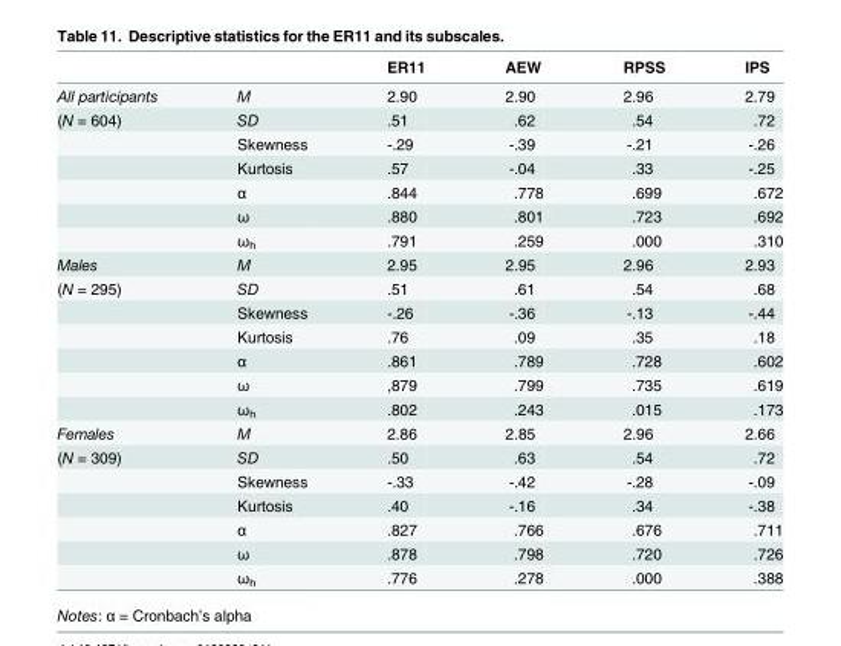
<table><thead><tr><td></td><td></td><td>ER11</td><td>AEW</td><td>RPSS</td><td>IPS</td></tr></thead><tbody><tr><td>All participants</td><td>M</td><td>2.90</td><td>2.90</td><td>2.96</td><td>2.79</td></tr><tr><td rowspan="6">(N = 604)</td><td>SD</td><td>.51</td><td>.62</td><td>.54</td><td>.72</td></tr><tr><td>Skewness</td><td>-.29</td><td>-.39</td><td>-.21</td><td>-.26</td></tr><tr><td>Kurtosis</td><td>.57</td><td>-.04</td><td>.33</td><td>-.25</td></tr><tr><td>α</td><td>.844</td><td>.778</td><td>.699</td><td>.672</td></tr><tr><td>ω</td><td>.880</td><td>.801</td><td>.723</td><td>.692</td></tr><tr><td>ω<sub>h</sub></td><td>.791</td><td>.259</td><td>.000</td><td>.310</td></tr><tr><td>Males</td><td>M</td><td>2.95</td><td>2.95</td><td>2.96</td><td>2.93</td></tr><tr><td rowspan="6">(N = 295)</td><td>SD</td><td>.51</td><td>.61</td><td>.54</td><td>.68</td></tr><tr><td>Skewness</td><td>-.26</td><td>-.36</td><td>-.13</td><td>-.44</td></tr><tr><td>Kurtosis</td><td>.76</td><td>.09</td><td>.35</td><td>.18</td></tr><tr><td>α</td><td>.861</td><td>.789</td><td>.728</td><td>.602</td></tr><tr><td>ω</td><td>,879</td><td>.799</td><td>.735</td><td>.619</td></tr><tr><td>ω<sub>h</sub></td><td>.802</td><td>.243</td><td>.015</td><td>.173</td></tr><tr><td>Females</td><td>M</td><td>2.86</td><td>2.85</td><td>2.96</td><td>2.66</td></tr><tr><td rowspan="6">(N = 309)</td><td>SD</td><td>.50</td><td>.63</td><td>.54</td><td>.72</td></tr><tr><td>Skewness</td><td>-.33</td><td>-.42</td><td>-.28</td><td>-.09</td></tr><tr><td>Kurtosis</td><td>.40</td><td>-.16</td><td>.34</td><td>-.38</td></tr><tr><td>α</td><td>.827</td><td>.766</td><td>.676</td><td>.711</td></tr><tr><td>ω</td><td>.878</td><td>.798</td><td>.720</td><td>.726</td></tr><tr><td>ω<sub>h</sub></td><td>.776</td><td>.278</td><td>.000</td><td>.388</td></tr></tbody></table>